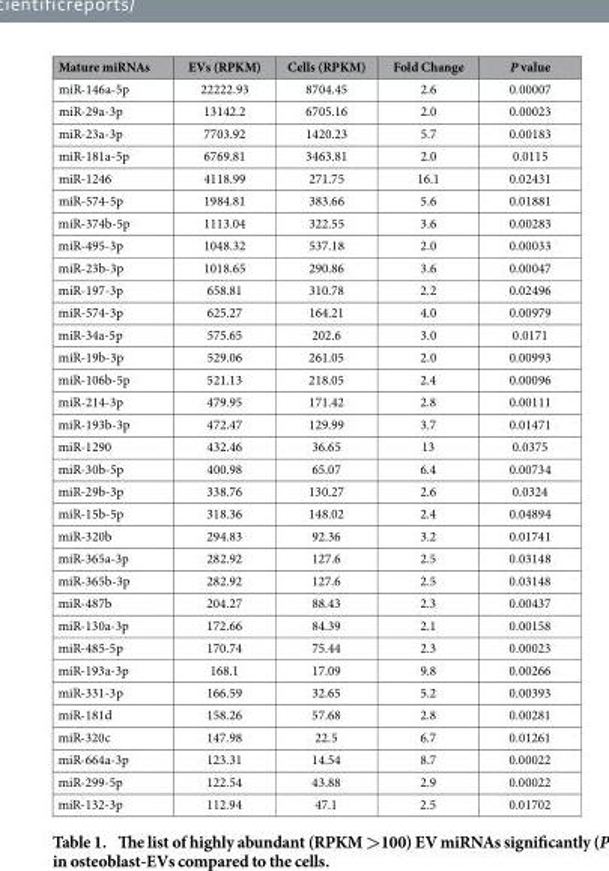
<table><thead><tr><td>Mature miRNAs</td><td>EVs (RPKM)</td><td>Cells (RPKM)</td><td>Fold Change</td><td>P value</td></tr></thead><tbody><tr><td>miR-146a-5p</td><td>22222.93</td><td>8704.45</td><td>2.6</td><td>0.00007</td></tr><tr><td>miR-29a-3p</td><td>13142.2</td><td>6705.16</td><td>2.0</td><td>0.00023</td></tr><tr><td>miR-23a-3p</td><td>7703.92</td><td>1420.23</td><td>5.7</td><td>0.00183</td></tr><tr><td>miR-181a-5p</td><td>6769.81</td><td>3463.81</td><td>2.0</td><td>0.0115</td></tr><tr><td>miR-1246</td><td>4118.99</td><td>271.75</td><td>16.1</td><td>0.02431</td></tr><tr><td>miR-574-5p</td><td>1984.81</td><td>383.66</td><td>5.6</td><td>0.01881</td></tr><tr><td>miR-374b-5p</td><td>1113.04</td><td>322.55</td><td>3.6</td><td>0.00283</td></tr><tr><td>miR-495-3p</td><td>1048.32</td><td>537.18</td><td>2.0</td><td>0.00033</td></tr><tr><td>miR-23b-3p</td><td>1018.65</td><td>290.86</td><td>3.6</td><td>0.00047</td></tr><tr><td>miR-197-3p</td><td>658.81</td><td>310.78</td><td>2.2</td><td>0.02496</td></tr><tr><td>miR-574-3p</td><td>625.27</td><td>164.21</td><td>4.0</td><td>0.00979</td></tr><tr><td>miR-34a-5p</td><td>575.65</td><td>202.6</td><td>3.0</td><td>0.0171</td></tr><tr><td>miR-19b-3p</td><td>529.06</td><td>261.05</td><td>2.0</td><td>0.00993</td></tr><tr><td>miR-106b-5p</td><td>521.13</td><td>218.05</td><td>2.4</td><td>0.00096</td></tr><tr><td>miR-214-3p</td><td>479.95</td><td>171.42</td><td>2.8</td><td>0.00111</td></tr><tr><td>miR-193b-3p</td><td>472.47</td><td>129.99</td><td>3.7</td><td>0.01471</td></tr><tr><td>miR-1290</td><td>432.46</td><td>36.65</td><td>13</td><td>0.0375</td></tr><tr><td>miR-30b-5p</td><td>400.98</td><td>65.07</td><td>6.4</td><td>0.00734</td></tr><tr><td>miR-29b-3p</td><td>338.76</td><td>130.27</td><td>2.6</td><td>0.0324</td></tr><tr><td>miR-15b-5p</td><td>318.36</td><td>148.02</td><td>2.4</td><td>0.04894</td></tr><tr><td>miR-320b</td><td>294.83</td><td>92.36</td><td>3.2</td><td>0.01741</td></tr><tr><td>miR-365a-3p</td><td>282.92</td><td>127.6</td><td>2.5</td><td>0.03148</td></tr><tr><td>miR-365b-3p</td><td>282.92</td><td>127.6</td><td>2.5</td><td>0.03148</td></tr><tr><td>miR-487b</td><td>204.27</td><td>88.43</td><td>2.3</td><td>0.00437</td></tr><tr><td>miR-130a-3p</td><td>172.66</td><td>84.39</td><td>2.1</td><td>0.00158</td></tr><tr><td>miR-485-5p</td><td>170.74</td><td>75.44</td><td>2.3</td><td>0.00023</td></tr><tr><td>miR-193a-3p</td><td>168.1</td><td>17.09</td><td>9.8</td><td>0.00266</td></tr><tr><td>miR-331-3p</td><td>166.59</td><td>32.65</td><td>5.2</td><td>0.00393</td></tr><tr><td>miR-181d</td><td>158.26</td><td>57.68</td><td>2.8</td><td>0.00281</td></tr><tr><td>miR-320c</td><td>147.98</td><td>22.5</td><td>6.7</td><td>0.01261</td></tr><tr><td>miR-664a-3p</td><td>123.31</td><td>14.54</td><td>8.7</td><td>0.00022</td></tr><tr><td>miR-299-5p</td><td>122.54</td><td>43.88</td><td>2.9</td><td>0.00022</td></tr><tr><td>miR-132-3p</td><td>112.94</td><td>47.1</td><td>2.5</td><td>0.01702</td></tr></tbody></table>